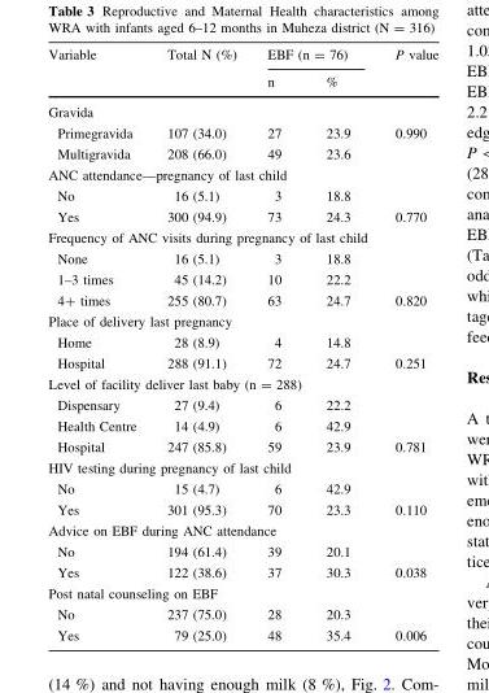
<table><thead><tr><td rowspan="2">Variable</td><td rowspan="2">Total N (%)</td><td colspan="2">EBF (n = 76)</td><td rowspan="2">P value</td></tr><tr><td>n</td><td>%</td></tr></thead><tbody><tr><td colspan="5">Gravida</td></tr><tr><td>Primegravida</td><td>107 (34.0)</td><td>27</td><td>23.9</td><td>0.990</td></tr><tr><td>Multigravida</td><td>208 (66.0)</td><td>49</td><td>23.6</td><td></td></tr><tr><td colspan="5">ANC attendance—pregnancy of last child</td></tr><tr><td>No</td><td>16 (5.1)</td><td>3</td><td>18.8</td><td></td></tr><tr><td>Yes</td><td>300 (94.9)</td><td>73</td><td>24.3</td><td>0.770</td></tr><tr><td colspan="5">Frequency of ANC visits during pregnancy of last child</td></tr><tr><td>None</td><td>16 (5.1)</td><td>3</td><td>18.8</td><td></td></tr><tr><td>1–3 times</td><td>45 (14.2)</td><td>10</td><td>22.2</td><td></td></tr><tr><td>4+ times</td><td>255 (80.7)</td><td>63</td><td>24.7</td><td>0.820</td></tr><tr><td colspan="5">Place of delivery last pregnancy</td></tr><tr><td>Home</td><td>28 (8.9)</td><td>4</td><td>14.8</td><td></td></tr><tr><td>Hospital</td><td>288 (91.1)</td><td>72</td><td>24.7</td><td>0.251</td></tr><tr><td colspan="5">Level of facility deliver last baby (n = 288)</td></tr><tr><td>Dispensary</td><td>27 (9.4)</td><td>6</td><td>22.2</td><td></td></tr><tr><td>Health Centre</td><td>14 (4.9)</td><td>6</td><td>42.9</td><td></td></tr><tr><td>Hospital</td><td>247 (85.8)</td><td>59</td><td>23.9</td><td>0.781</td></tr><tr><td colspan="5">HIV testing during pregnancy of last child</td></tr><tr><td>No</td><td>15 (4.7)</td><td>6</td><td>42.9</td><td></td></tr><tr><td>Yes</td><td>301 (95.3)</td><td>70</td><td>23.3</td><td>0.110</td></tr><tr><td colspan="5">Advice on EBF during ANC attendance</td></tr><tr><td>No</td><td>194 (61.4)</td><td>39</td><td>20.1</td><td></td></tr><tr><td>Yes</td><td>122 (38.6)</td><td>37</td><td>30.3</td><td>0.038</td></tr><tr><td colspan="5">Post natal counseling on EBF</td></tr><tr><td>No</td><td>237 (75.0)</td><td>28</td><td>20.3</td><td></td></tr><tr><td>Yes</td><td>79 (25.0)</td><td>48</td><td>35.4</td><td>0.006</td></tr></tbody></table>